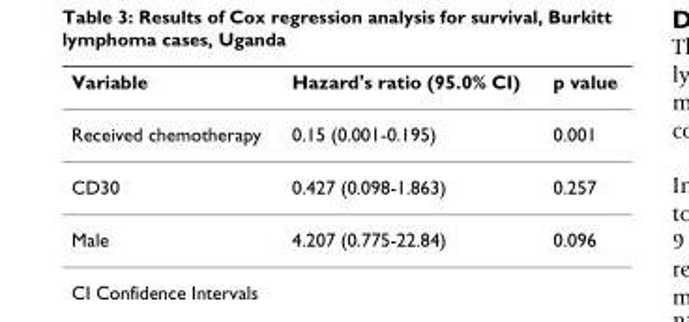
<table><thead><tr><td>Variable</td><td>Hazard&#x27;s ratio (95.0% CI)</td><td>p value</td></tr></thead><tbody><tr><td>Received chemotherapy</td><td>0.15 (0.001-0.195)</td><td>0.001</td></tr><tr><td>CD30</td><td>0.427 (0.098-1.863)</td><td>0.257</td></tr><tr><td>Male</td><td>4.207 (0.775-22.84)</td><td>0.096</td></tr></tbody></table>